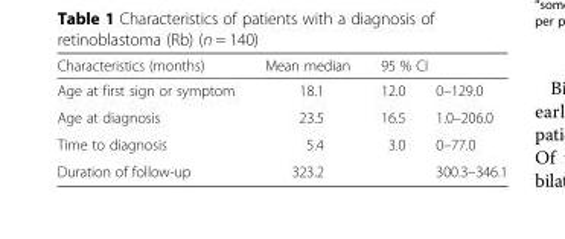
<table><thead><tr><td rowspan="2">Characteristics (months) Age at first sign or symptom</td><td rowspan="2">Mean median 18.1</td><td colspan="2">95 % CI</td></tr><tr><td>12.0</td><td>0–129.0</td></tr></thead><tbody><tr><td>Age at diagnosis</td><td>23.5</td><td>16.5</td><td>1.0–206.0</td></tr><tr><td>Time to diagnosis</td><td>5.4</td><td>3.0</td><td>0–77.0</td></tr><tr><td>Duration of follow-up</td><td>323.2</td><td></td><td>300.3–346.1</td></tr></tbody></table>